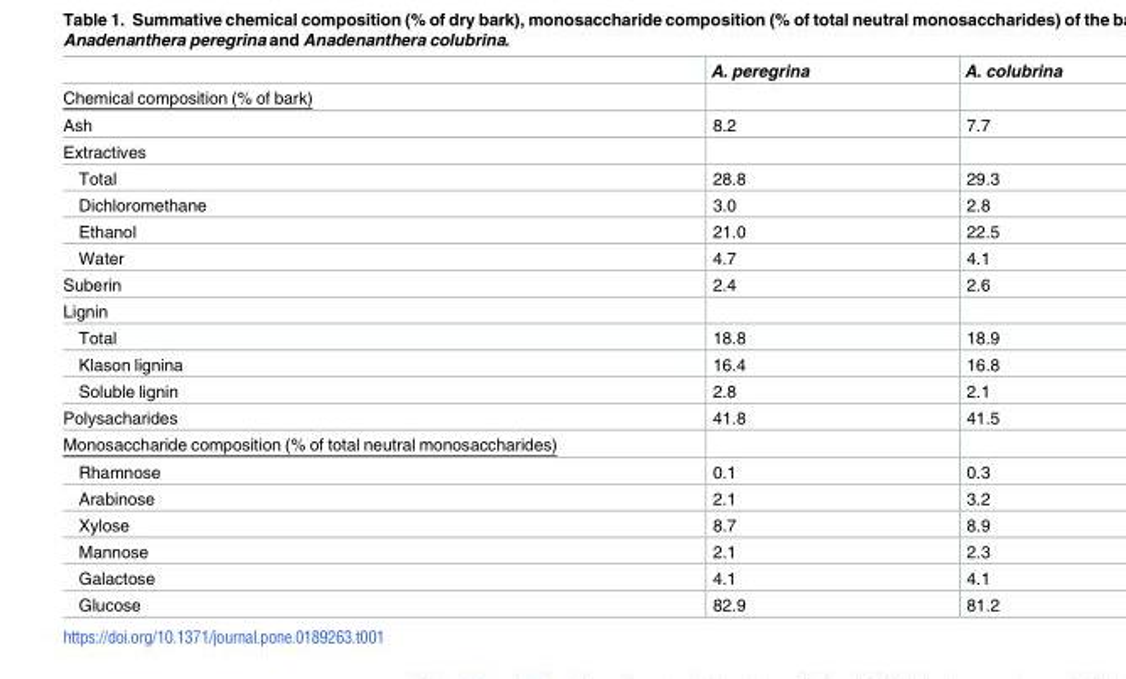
<table><thead><tr><td></td><td>A. peregrina</td><td>A. colubrina</td></tr></thead><tbody><tr><td colspan="3">Chemical composition (% of bark)</td></tr><tr><td>Ash</td><td>8.2</td><td>7.7</td></tr><tr><td colspan="3">Extractives</td></tr><tr><td>Total</td><td>28.8</td><td>29.3</td></tr><tr><td>Dichloromethane</td><td>3.0</td><td>2.8</td></tr><tr><td>Ethanol</td><td>21.0</td><td>22.5</td></tr><tr><td>Water</td><td>4.7</td><td>4.1</td></tr><tr><td>Suberin</td><td>2.4</td><td>2.6</td></tr><tr><td colspan="3">Lignin</td></tr><tr><td>Total</td><td>18.8</td><td>18.9</td></tr><tr><td>Klason lignina</td><td>16.4</td><td>16.8</td></tr><tr><td>Soluble lignin</td><td>2.8</td><td>2.1</td></tr><tr><td>Polysacharides</td><td>41.8</td><td>41.5</td></tr><tr><td colspan="3">Monosaccharide composition (% of total neutral monosaccharides)</td></tr><tr><td>Rhamnose</td><td>0.1</td><td>0.3</td></tr><tr><td>Arabinose</td><td>2.1</td><td>3.2</td></tr><tr><td>Xylose</td><td>8.7</td><td>8.9</td></tr><tr><td>Mannose</td><td>2.1</td><td>2.3</td></tr><tr><td>Galactose</td><td>4.1</td><td>4.1</td></tr><tr><td>Glucose</td><td>82.9</td><td>81.2</td></tr></tbody></table>